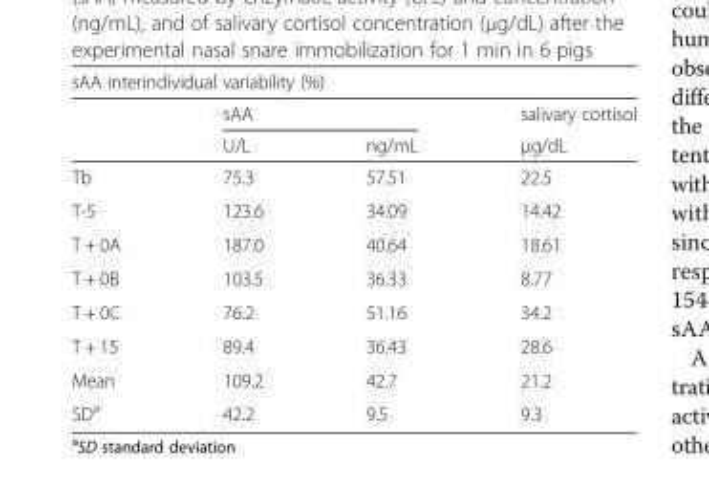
<table><thead><tr><td colspan="4">sAA interindividual variability (%)</td></tr><tr><td rowspan="2"></td><td colspan="2">sAA</td><td rowspan="2">salivary cortisol μg/dL</td></tr><tr><td>U/L</td><td>ng/mL</td></tr></thead><tbody><tr><td>Tb</td><td>75.3</td><td>57.51</td><td>22.5</td></tr><tr><td>T-5</td><td>123.6</td><td>34.09</td><td>14.42</td></tr><tr><td>T + 0A</td><td>187.0</td><td>40.64</td><td>18.61</td></tr><tr><td>T + 0B</td><td>103.5</td><td>36.33</td><td>8.77</td></tr><tr><td>T + 0C</td><td>76.2</td><td>51.16</td><td>34.2</td></tr><tr><td>T + 15</td><td>89.4</td><td>36.43</td><td>28.6</td></tr><tr><td>Mean</td><td>109.2</td><td>42.7</td><td>21.2</td></tr><tr><td>SD<sup>a</sup></td><td>42.2</td><td>9.5</td><td>9.3</td></tr></tbody></table>